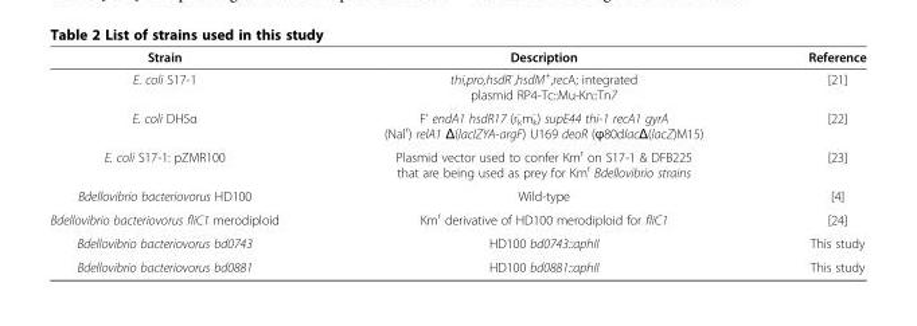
<table><thead><tr><td>Strain</td><td>Description</td><td>Reference</td></tr></thead><tbody><tr><td>E. coli S17-1</td><td>thi,pro,hsdR<sup>-</sup>,hsdM<sup>+</sup>,recA; integrated plasmid RP4-Tc::Mu-Kn::Tn7</td><td>[21]</td></tr><tr><td>E. coli DH5α</td><td>F’ endA1 hsdR17 (r<sub>k</sub> <sup>-</sup>m<sub>k</sub> <sup>-</sup>) supE44 thi-1 recA1 gyrA (Nal<sup>r</sup>) relA1 Δ(lacIZYA-argF) U169 deoR (ϕ80dlacΔ(lacZ)M15)</td><td>[22]</td></tr><tr><td>E. coli S17-1: pZMR100</td><td>Plasmid vector used to confer Km<sup>r</sup> on S17-1 &amp; DFB225 that are being used as prey for Km<sup>r</sup> Bdellovibrio strains</td><td>[23]</td></tr><tr><td>Bdellovibrio bacteriovorus HD100</td><td>Wild-type</td><td>[4]</td></tr><tr><td>Bdellovibrio bacteriovorus fliC1 merodiploid</td><td>Km<sup>r</sup> derivative of HD100 merodiploid for fliC1</td><td>[24]</td></tr><tr><td>Bdellovibrio bacteriovorus bd0743</td><td>HD100 bd0743::aphII</td><td>This study</td></tr><tr><td>Bdellovibrio bacteriovorus bd0881</td><td>HD100 bd0881::aphII</td><td>This study</td></tr></tbody></table>